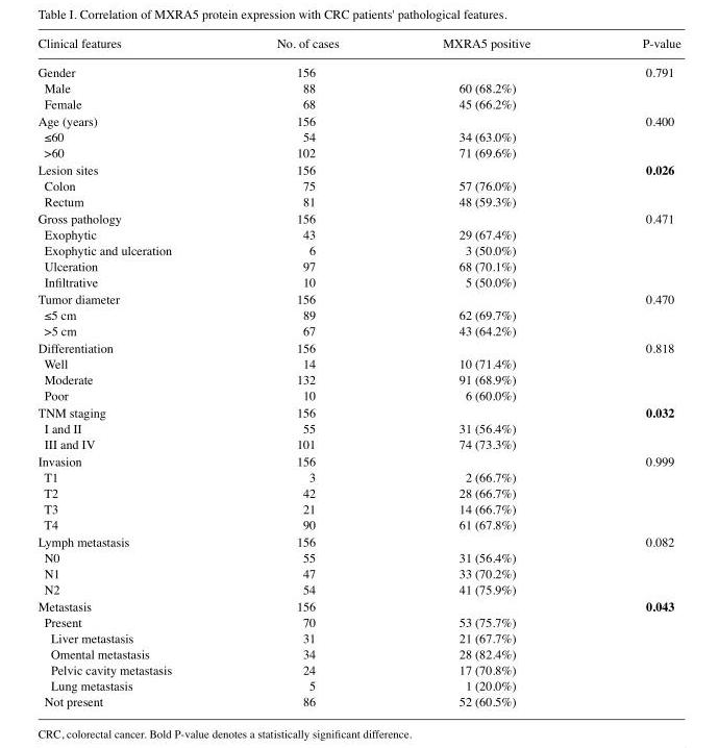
<table><thead><tr><td>Clinical features</td><td>No. of cases</td><td>MXRA5 positive</td><td>P-value</td></tr></thead><tbody><tr><td>Gender</td><td>156</td><td></td><td>0.791</td></tr><tr><td>Male</td><td>88</td><td>60 (68.2%)</td><td></td></tr><tr><td>Female</td><td>68</td><td>45 (66.2%)</td><td></td></tr><tr><td>Age (years)</td><td>156</td><td></td><td>0.400</td></tr><tr><td>≤60</td><td>54</td><td>34 (63.0%)</td><td></td></tr><tr><td>&gt;60</td><td>102</td><td>71 (69.6%)</td><td></td></tr><tr><td>Lesion sites</td><td>156</td><td></td><td>0.026</td></tr><tr><td>Colon</td><td>75</td><td>57 (76.0%)</td><td></td></tr><tr><td>Rectum</td><td>81</td><td>48 (59.3%)</td><td></td></tr><tr><td>Gross pathology</td><td>156</td><td></td><td>0.471</td></tr><tr><td>Exophytic</td><td>43</td><td>29 (67.4%)</td><td></td></tr><tr><td>Exophytic and ulceration</td><td>6</td><td>3 (50.0%)</td><td></td></tr><tr><td>Ulceration</td><td>97</td><td>68 (70.1%)</td><td></td></tr><tr><td>Infiltrative</td><td>10</td><td>5 (50.0%)</td><td></td></tr><tr><td>Tumor diameter</td><td>156</td><td></td><td>0.470</td></tr><tr><td>≤5 cm</td><td>89</td><td>62 (69.7%)</td><td></td></tr><tr><td>&gt;5 cm</td><td>67</td><td>43 (64.2%)</td><td></td></tr><tr><td>Differentiation</td><td>156</td><td></td><td>0.818</td></tr><tr><td>Well</td><td>14</td><td>10 (71.4%)</td><td></td></tr><tr><td>Moderate</td><td>132</td><td>91 (68.9%)</td><td></td></tr><tr><td>Poor</td><td>10</td><td>6 (60.0%)</td><td></td></tr><tr><td>TNM staging</td><td>156</td><td></td><td>0.032</td></tr><tr><td>I and II</td><td>55</td><td>31 (56.4%)</td><td></td></tr><tr><td>III and IV</td><td>101</td><td>74 (73.3%)</td><td></td></tr><tr><td>Invasion</td><td>156</td><td></td><td>0.999</td></tr><tr><td>T1</td><td>3</td><td>2 (66.7%)</td><td></td></tr><tr><td>T2</td><td>42</td><td>28 (66.7%)</td><td></td></tr><tr><td>T3</td><td>21</td><td>14 (66.7%)</td><td></td></tr><tr><td>T4</td><td>90</td><td>61 (67.8%)</td><td></td></tr><tr><td>Lymph metastasis</td><td>156</td><td></td><td>0.082</td></tr><tr><td>N0</td><td>55</td><td>31 (56.4%)</td><td></td></tr><tr><td>N1</td><td>47</td><td>33 (70.2%)</td><td></td></tr><tr><td>N2</td><td>54</td><td>41 (75.9%)</td><td></td></tr><tr><td>Metastasis</td><td>156</td><td></td><td>0.043</td></tr><tr><td>Present</td><td>70</td><td>53 (75.7%)</td><td></td></tr><tr><td>Liver metastasis</td><td>31</td><td>21 (67.7%)</td><td></td></tr><tr><td>Omental metastasis</td><td>34</td><td>28 (82.4%)</td><td></td></tr><tr><td>Pelvic cavity metastasis</td><td>24</td><td>17 (70.8%)</td><td></td></tr><tr><td>Lung metastasis</td><td>5</td><td>1 (20.0%)</td><td></td></tr><tr><td>Not present</td><td>86</td><td>52 (60.5%)</td><td></td></tr></tbody></table>